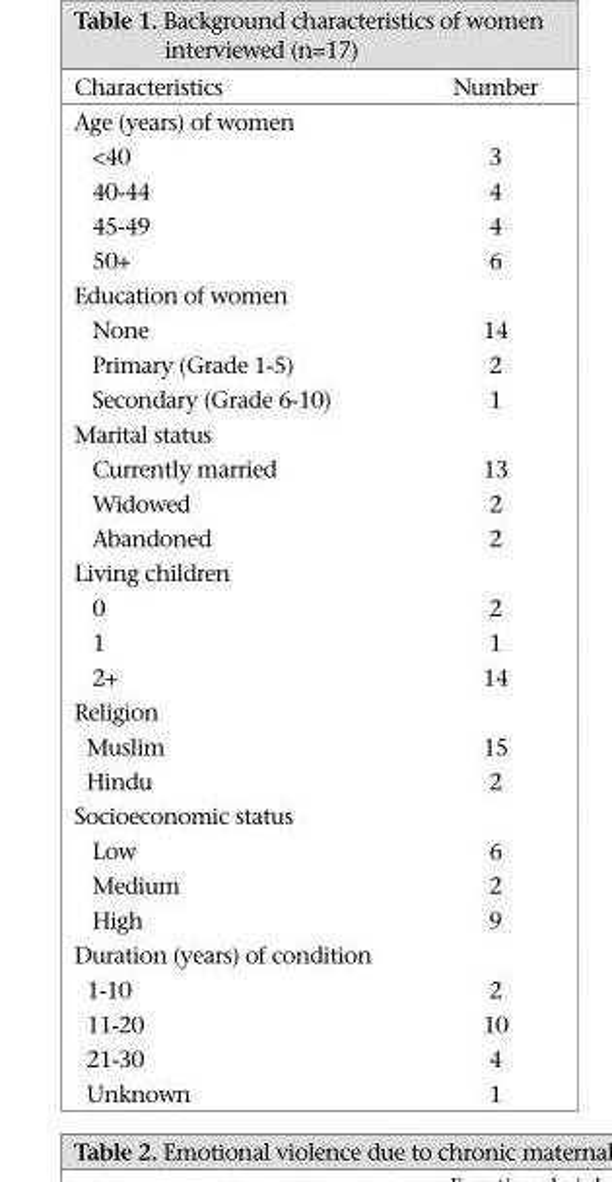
<table><thead><tr><td>Characteristics</td><td>Number</td></tr></thead><tbody><tr><td colspan="2">Age (years) of women</td></tr><tr><td>&lt;40</td><td>3</td></tr><tr><td>40-44</td><td>4</td></tr><tr><td>45-49</td><td>4</td></tr><tr><td>50+</td><td>6</td></tr><tr><td colspan="2">Education of women</td></tr><tr><td>None</td><td>14</td></tr><tr><td>Primary (Grade 1-5)</td><td>2</td></tr><tr><td>Secondary (Grade 6-10)</td><td>1</td></tr><tr><td colspan="2">Marital status</td></tr><tr><td>Currently married</td><td>13</td></tr><tr><td>Widowed</td><td>2</td></tr><tr><td>Abandoned</td><td>2</td></tr><tr><td colspan="2">Living children</td></tr><tr><td>0</td><td>2</td></tr><tr><td>1</td><td>1</td></tr><tr><td>2+</td><td>14</td></tr><tr><td colspan="2">Religion</td></tr><tr><td>Muslim</td><td>15</td></tr><tr><td>Hindu</td><td>2</td></tr><tr><td colspan="2">Socioeconomic status</td></tr><tr><td>Low</td><td>6</td></tr><tr><td>Medium</td><td>2</td></tr><tr><td>High</td><td>9</td></tr><tr><td colspan="2">Duration (years) of condition</td></tr><tr><td>1-10</td><td>2</td></tr><tr><td>11-20</td><td>10</td></tr><tr><td>21-30</td><td>4</td></tr><tr><td>Unknown</td><td>1</td></tr></tbody></table>